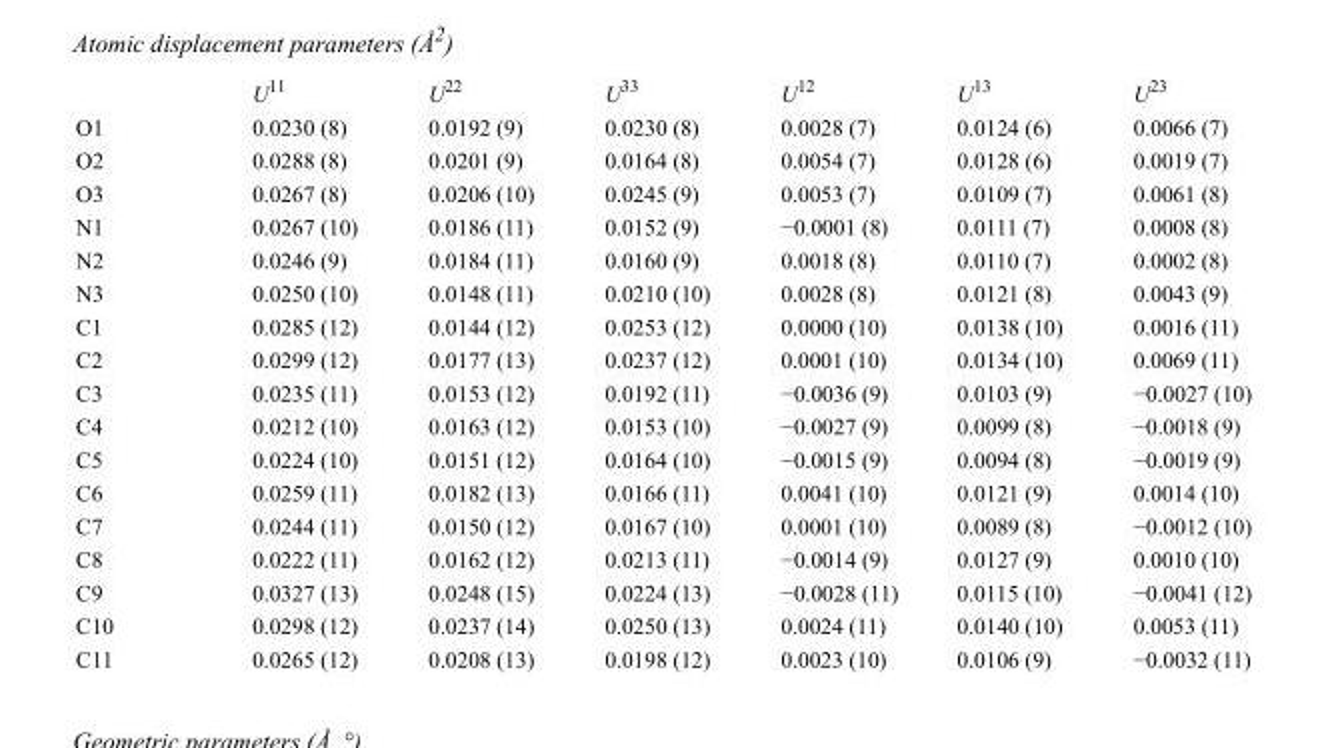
<table><thead><tr><td></td><td>U<sup>11</sup></td><td>U<sup>22</sup></td><td>U<sup>33</sup></td><td>U<sup>12</sup></td><td>U<sup>13</sup></td><td>U<sup>23</sup></td></tr></thead><tbody><tr><td>O1</td><td>0.0230 (8)</td><td>0.0192 (9)</td><td>0.0230 (8)</td><td>0.0028 (7)</td><td>0.0124 (6)</td><td>0.0066 (7)</td></tr><tr><td>O2</td><td>0.0288 (8)</td><td>0.0201 (9)</td><td>0.0164 (8)</td><td>0.0054 (7)</td><td>0.0128 (6)</td><td>0.0019 (7)</td></tr><tr><td>O3</td><td>0.0267 (8)</td><td>0.0206 (10)</td><td>0.0245 (9)</td><td>0.0053 (7)</td><td>0.0109 (7)</td><td>0.0061 (8)</td></tr><tr><td>N1</td><td>0.0267 (10)</td><td>0.0186 (11)</td><td>0.0152 (9)</td><td>−0.0001 (8)</td><td>0.0111 (7)</td><td>0.0008 (8)</td></tr><tr><td>N2</td><td>0.0246 (9)</td><td>0.0184 (11)</td><td>0.0160 (9)</td><td>0.0018 (8)</td><td>0.0110 (7)</td><td>0.0002 (8)</td></tr><tr><td>N3</td><td>0.0250 (10)</td><td>0.0148 (11)</td><td>0.0210 (10)</td><td>0.0028 (8)</td><td>0.0121 (8)</td><td>0.0043 (9)</td></tr><tr><td>C1</td><td>0.0285 (12)</td><td>0.0144 (12)</td><td>0.0253 (12)</td><td>0.0000 (10)</td><td>0.0138 (10)</td><td>0.0016 (11)</td></tr><tr><td>C2</td><td>0.0299 (12)</td><td>0.0177 (13)</td><td>0.0237 (12)</td><td>0.0001 (10)</td><td>0.0134 (10)</td><td>0.0069 (11)</td></tr><tr><td>C3</td><td>0.0235 (11)</td><td>0.0153 (12)</td><td>0.0192 (11)</td><td>−0.0036 (9)</td><td>0.0103 (9)</td><td>−0.0027 (10)</td></tr><tr><td>C4</td><td>0.0212 (10)</td><td>0.0163 (12)</td><td>0.0153 (10)</td><td>−0.0027 (9)</td><td>0.0099 (8)</td><td>−0.0018 (9)</td></tr><tr><td>C5</td><td>0.0224 (10)</td><td>0.0151 (12)</td><td>0.0164 (10)</td><td>−0.0015 (9)</td><td>0.0094 (8)</td><td>−0.0019 (9)</td></tr><tr><td>C6</td><td>0.0259 (11)</td><td>0.0182 (13)</td><td>0.0166 (11)</td><td>0.0041 (10)</td><td>0.0121 (9)</td><td>0.0014 (10)</td></tr><tr><td>C7</td><td>0.0244 (11)</td><td>0.0150 (12)</td><td>0.0167 (10)</td><td>0.0001 (10)</td><td>0.0089 (8)</td><td>−0.0012 (10)</td></tr><tr><td>C8</td><td>0.0222 (11)</td><td>0.0162 (12)</td><td>0.0213 (11)</td><td>−0.0014 (9)</td><td>0.0127 (9)</td><td>0.0010 (10)</td></tr><tr><td>C9</td><td>0.0327 (13)</td><td>0.0248 (15)</td><td>0.0224 (13)</td><td>−0.0028 (11)</td><td>0.0115 (10)</td><td>−0.0041 (12)</td></tr><tr><td>C10</td><td>0.0298 (12)</td><td>0.0237 (14)</td><td>0.0250 (13)</td><td>0.0024 (11)</td><td>0.0140 (10)</td><td>0.0053 (11)</td></tr><tr><td>C11</td><td>0.0265 (12)</td><td>0.0208 (13)</td><td>0.0198 (12)</td><td>0.0023 (10)</td><td>0.0106 (9)</td><td>−0.0032 (11)</td></tr></tbody></table>